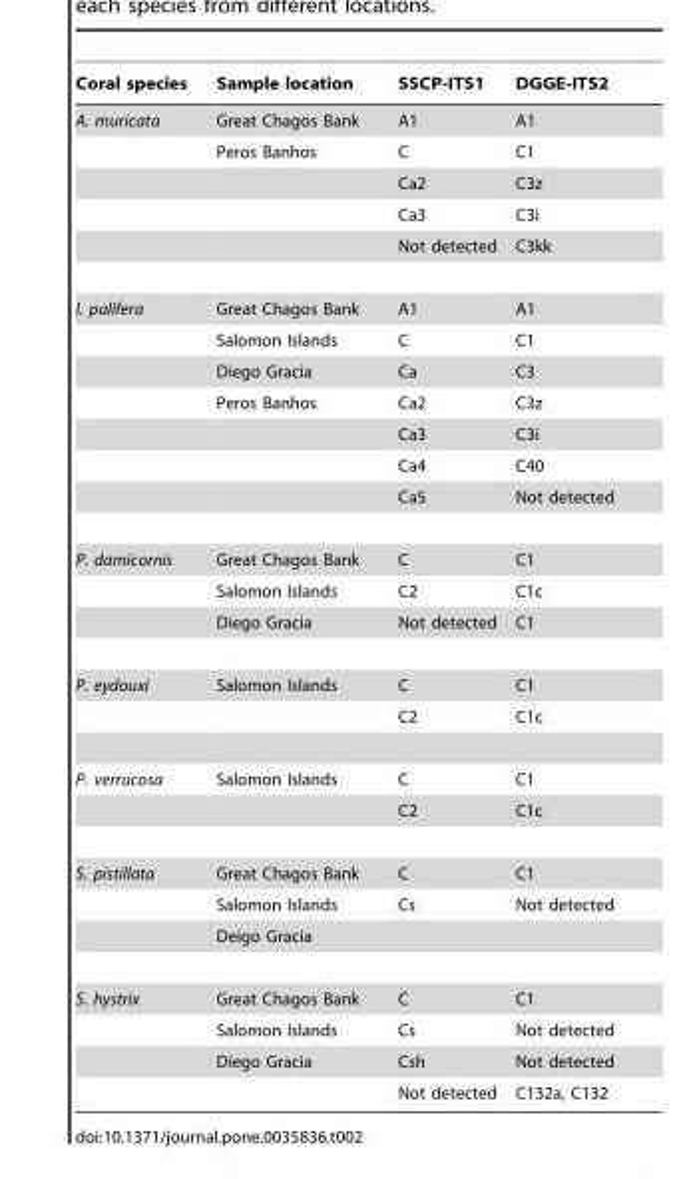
<table><thead><tr><td>Coral species</td><td>Sample location</td><td>SSCP-ITS1</td><td>DGGE-ITS2</td></tr></thead><tbody><tr><td rowspan="5">A. muricata</td><td>Great Chagos Bank</td><td>A1</td><td>A1</td></tr><tr><td>Peros Banhos</td><td>C</td><td>C1</td></tr><tr><td></td><td>Ca2</td><td>C3z</td></tr><tr><td></td><td>Ca3</td><td>C3i</td></tr><tr><td></td><td>Not detected</td><td>C3kk</td></tr><tr><td rowspan="7">I. palifera</td><td>Great Chagos Bank</td><td>A1</td><td>A1</td></tr><tr><td>Salomon Islands</td><td>C</td><td>C1</td></tr><tr><td>Diego Gracia</td><td>Ca</td><td>C3</td></tr><tr><td>Peros Banhos</td><td>Ca2</td><td>C3z</td></tr><tr><td></td><td>Ca3</td><td>C3i</td></tr><tr><td></td><td>Ca4</td><td>C40</td></tr><tr><td></td><td>Ca5</td><td>Not detected</td></tr><tr><td rowspan="3">P. damicornis</td><td>Great Chagos Bank</td><td>C</td><td>C1</td></tr><tr><td>Salomon Islands</td><td>C2</td><td>C1c</td></tr><tr><td>Diego Gracia</td><td>Not detected</td><td>C1</td></tr><tr><td rowspan="2">P. eydouxi</td><td>Salomon Islands</td><td>C</td><td>C1</td></tr><tr><td></td><td>C2</td><td>C1c</td></tr><tr><td rowspan="2">P. verrucosa</td><td>Salomon Islands</td><td>C</td><td>C1</td></tr><tr><td></td><td>C2</td><td>C1c</td></tr><tr><td rowspan="3">S. pistillata</td><td>Great Chagos Bank</td><td>C</td><td>C1</td></tr><tr><td>Salomon Islands</td><td>Cs</td><td>Not detected</td></tr><tr><td>Deigo Gracia</td><td></td><td></td></tr><tr><td rowspan="4">S. hystrix</td><td>Great Chagos Bank</td><td>C</td><td>C1</td></tr><tr><td>Salomon Islands</td><td>Cs</td><td>Not detected</td></tr><tr><td>Diego Gracia</td><td>Csh</td><td>Not detected</td></tr><tr><td></td><td>Not detected</td><td>C132a, C132</td></tr></tbody></table>